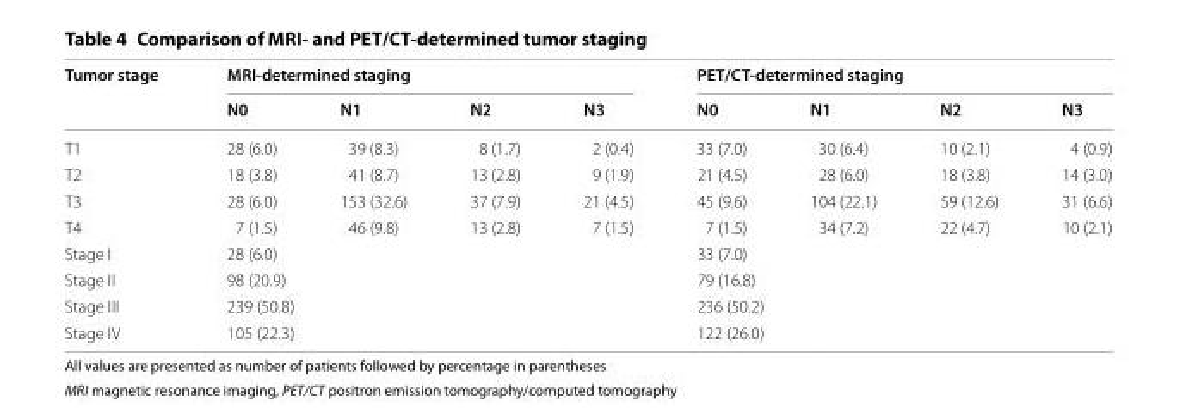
<table><thead><tr><td rowspan="2">Tumor stage</td><td colspan="4">MRI‑determined staging</td><td colspan="4">PET/CT‑determined staging</td></tr><tr><td>N0</td><td>N1</td><td>N2</td><td>N3</td><td>N0</td><td>N1</td><td>N2</td><td>N3</td></tr></thead><tbody><tr><td>T1</td><td>28 (6.0)</td><td>39 (8.3)</td><td>8 (1.7)</td><td>2 (0.4)</td><td>33 (7.0)</td><td>30 (6.4)</td><td>10 (2.1)</td><td>4 (0.9)</td></tr><tr><td>T2</td><td>18 (3.8)</td><td>41 (8.7)</td><td>13 (2.8)</td><td>9 (1.9)</td><td>21 (4.5)</td><td>28 (6.0)</td><td>18 (3.8)</td><td>14 (3.0)</td></tr><tr><td>T3</td><td>28 (6.0)</td><td>153 (32.6)</td><td>37 (7.9)</td><td>21 (4.5)</td><td>45 (9.6)</td><td>104 (22.1)</td><td>59 (12.6)</td><td>31 (6.6)</td></tr><tr><td>T4</td><td>7 (1.5)</td><td>46 (9.8)</td><td>13 (2.8)</td><td>7 (1.5)</td><td>7 (1.5)</td><td>34 (7.2)</td><td>22 (4.7)</td><td>10 (2.1)</td></tr><tr><td>Stage I</td><td colspan="4">28 (6.0)</td><td colspan="4">33 (7.0)</td></tr><tr><td>Stage II</td><td colspan="4">98 (20.9)</td><td colspan="4">79 (16.8)</td></tr><tr><td>Stage III</td><td colspan="4">239 (50.8)</td><td colspan="4">236 (50.2)</td></tr><tr><td>Stage IV</td><td colspan="4">105 (22.3)</td><td colspan="4">122 (26.0)</td></tr></tbody></table>